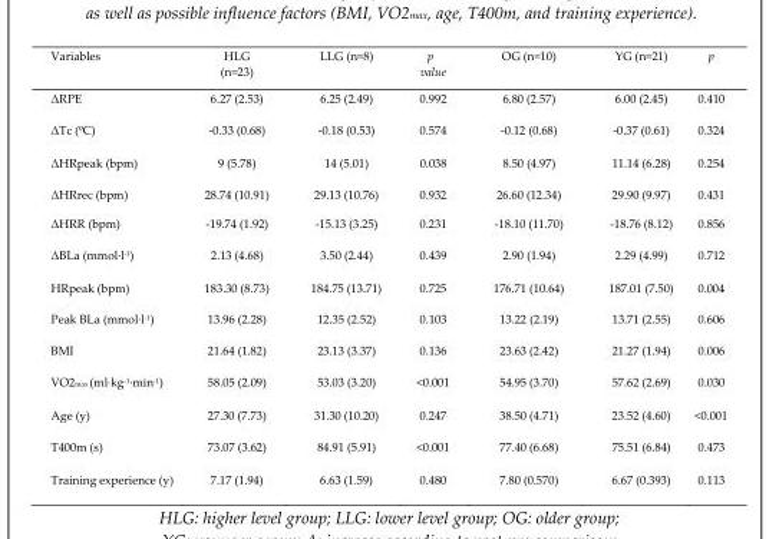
<table><thead><tr><td>Variables</td><td>HLG (n=23)</td><td>LLG (n=8)</td><td>p value</td><td>OG (n=10)</td><td>YG (n=21)</td><td>p</td></tr></thead><tbody><tr><td>ΔRPE</td><td>6.27 (2.53)</td><td>6.25 (2.49)</td><td>0.992</td><td>6.80 (2.57)</td><td>6.00 (2.45)</td><td>0.410</td></tr><tr><td>ΔTc (ºC)</td><td>-0.33 (0.68)</td><td>-0.18 (0.53)</td><td>0.574</td><td>-0.12 (0.68)</td><td>-0.37 (0.61)</td><td>0.324</td></tr><tr><td>ΔHRpeak (bpm)</td><td>9 (5.78)</td><td>14 (5.01)</td><td>0.038</td><td>8.50 (4.97)</td><td>11.14 (6.28)</td><td>0.254</td></tr><tr><td>ΔHRrec (bpm)</td><td>28.74 (10.91)</td><td>29.13 (10.76)</td><td>0.932</td><td>26.60 (12.34)</td><td>29.90 (9.97)</td><td>0.431</td></tr><tr><td>ΔHRR (bpm)</td><td>-19.74 (1.92)</td><td>-15.13 (3.25)</td><td>0.231</td><td>-18.10 (11.70)</td><td>-18.76 (8.12)</td><td>0.856</td></tr><tr><td>ΔBLa (mmol·l<sup>-1</sup>)</td><td>2.13 (4.68)</td><td>3.50 (2.44)</td><td>0.439</td><td>2.90 (1.94)</td><td>2.29 (4.99)</td><td>0.712</td></tr><tr><td>HRpeak (bpm)</td><td>183.30 (8.73)</td><td>184.75 (13.71)</td><td>0.725</td><td>176.71 (10.64)</td><td>187.01 (7.50)</td><td>0.004</td></tr><tr><td>Peak BLa (mmol·l<sup>-1</sup>)</td><td>13.96 (2.28)</td><td>12.35 (2.52)</td><td>0.103</td><td>13.22 (2.19)</td><td>13.71 (2.55)</td><td>0.606</td></tr><tr><td>BMI</td><td>21.64 (1.82)</td><td>23.13 (3.37)</td><td>0.136</td><td>23.63 (2.42)</td><td>21.27 (1.94)</td><td>0.006</td></tr><tr><td>VO2<sub>max</sub> (ml·kg<sup>-1</sup>·min<sup>-1</sup>)</td><td>58.05 (2.09)</td><td>53.03 (3.20)</td><td>&lt;0.001</td><td>54.95 (3.70)</td><td>57.62 (2.69)</td><td>0.030</td></tr><tr><td>Age (y)</td><td>27.30 (7.73)</td><td>31.30 (10.20)</td><td>0.247</td><td>38.50 (4.71)</td><td>23.52 (4.60)</td><td>&lt;0.001</td></tr><tr><td>T400m (s)</td><td>73.07 (3.62)</td><td>84.91 (5.91)</td><td>&lt;0.001</td><td>77.40 (6.68)</td><td>75.51 (6.84)</td><td>0.473</td></tr><tr><td>Training experience (y)</td><td>7.17 (1.94)</td><td>6.63 (1.59)</td><td>0.480</td><td>7.80 (0.570)</td><td>6.67 (0.393)</td><td>0.113</td></tr></tbody></table>